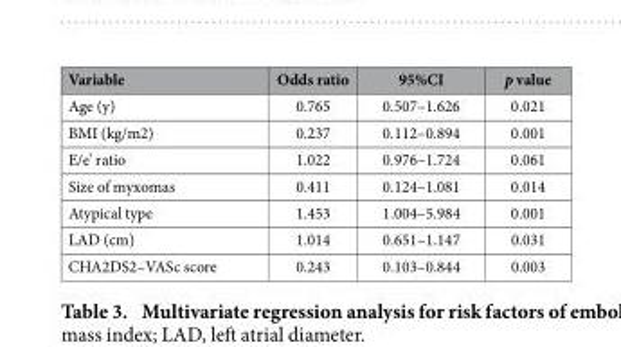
<table><thead><tr><td>Variable</td><td>Odds ratio</td><td>95%CI</td><td>p value</td></tr></thead><tbody><tr><td>Age (y)</td><td>0.765</td><td>0.507–1.626</td><td>0.021</td></tr><tr><td>BMI (kg/m2)</td><td>0.237</td><td>0.112–0.894</td><td>0.001</td></tr><tr><td>E/e’ ratio</td><td>1.022</td><td>0.976–1.724</td><td>0.061</td></tr><tr><td>Size of myxomas</td><td>0.411</td><td>0.124–1.081</td><td>0.014</td></tr><tr><td>Atypical type</td><td>1.453</td><td>1.004–5.984</td><td>0.001</td></tr><tr><td>LAD (cm)</td><td>1.014</td><td>0.651–1.147</td><td>0.031</td></tr><tr><td>CHA2DS2–VASc score</td><td>0.243</td><td>0.103–0.844</td><td>0.003</td></tr></tbody></table>